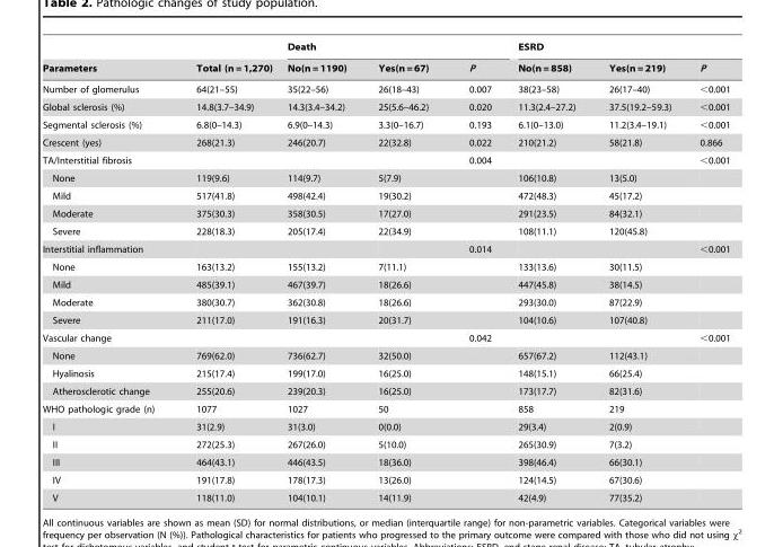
<table><thead><tr><td rowspan="2">Parameters</td><td rowspan="2">Total (n = 1,270)</td><td colspan="3">Death</td><td colspan="3">ESRD</td></tr><tr><td>No(n = 1190)</td><td>Yes(n = 67)</td><td>P</td><td>No(n = 858)</td><td>Yes(n = 219)</td><td>P</td></tr></thead><tbody><tr><td>Number of glomerulus</td><td>64(21–55)</td><td>35(22–56)</td><td>26(18–43)</td><td>0.007</td><td>38(23–58)</td><td>26(17–40)</td><td>&lt;0.001</td></tr><tr><td>Global sclerosis (%)</td><td>14.8(3.7–34.9)</td><td>14.3(3.4–34.2)</td><td>25(5.6–46.2)</td><td>0.020</td><td>11.3(2.4–27.2)</td><td>37.5(19.2–59.3)</td><td>&lt;0.001</td></tr><tr><td>Segmental sclerosis (%)</td><td>6.8(0–14.3)</td><td>6.9(0–14.3)</td><td>3.3(0–16.7)</td><td>0.193</td><td>6.1(0–13.0)</td><td>11.2(3.4–19.1)</td><td>&lt;0.001</td></tr><tr><td>Crescent (yes)</td><td>268(21.3)</td><td>246(20.7)</td><td>22(32.8)</td><td>0.022</td><td>210(21.2)</td><td>58(21.8)</td><td>0.866</td></tr><tr><td>TA/Interstitial fibrosis</td><td></td><td></td><td></td><td>0.004</td><td></td><td></td><td>&lt;0.001</td></tr><tr><td>None</td><td>119(9.6)</td><td>114(9.7)</td><td>5(7.9)</td><td></td><td>106(10.8)</td><td>13(5.0)</td><td></td></tr><tr><td>Mild</td><td>517(41.8)</td><td>498(42.4)</td><td>19(30.2)</td><td></td><td>472(48.3)</td><td>45(17.2)</td><td></td></tr><tr><td>Moderate</td><td>375(30.3)</td><td>358(30.5)</td><td>17(27.0)</td><td></td><td>291(23.5)</td><td>84(32.1)</td><td></td></tr><tr><td>Severe</td><td>228(18.3)</td><td>205(17.4)</td><td>22(34.9)</td><td></td><td>108(11.1)</td><td>120(45.8)</td><td></td></tr><tr><td>Interstitial inflammation</td><td></td><td></td><td></td><td>0.014</td><td></td><td></td><td>&lt;0.001</td></tr><tr><td>None</td><td>163(13.2)</td><td>155(13.2)</td><td>7(11.1)</td><td></td><td>133(13.6)</td><td>30(11.5)</td><td></td></tr><tr><td>Mild</td><td>485(39.1)</td><td>467(39.7)</td><td>18(26.6)</td><td></td><td>447(45.8)</td><td>38(14.5)</td><td></td></tr><tr><td>Moderate</td><td>380(30.7)</td><td>362(30.8)</td><td>18(26.6)</td><td></td><td>293(30.0)</td><td>87(22.9)</td><td></td></tr><tr><td>Severe</td><td>211(17.0)</td><td>191(16.3)</td><td>20(31.7)</td><td></td><td>104(10.6)</td><td>107(40.8)</td><td></td></tr><tr><td>Vascular change</td><td></td><td></td><td></td><td>0.042</td><td></td><td></td><td>&lt;0.001</td></tr><tr><td>None</td><td>769(62.0)</td><td>736(62.7)</td><td>32(50.0)</td><td></td><td>657(67.2)</td><td>112(43.1)</td><td></td></tr><tr><td>Hyalinosis</td><td>215(17.4)</td><td>199(17.0)</td><td>16(25.0)</td><td></td><td>148(15.1)</td><td>66(25.4)</td><td></td></tr><tr><td>Atherosclerotic change</td><td>255(20.6)</td><td>239(20.3)</td><td>16(25.0)</td><td></td><td>173(17.7)</td><td>82(31.6)</td><td></td></tr><tr><td>WHO pathologic grade (n)</td><td>1077</td><td>1027</td><td>50</td><td></td><td>858</td><td>219</td><td></td></tr><tr><td>I</td><td>31(2.9)</td><td>31(3.0)</td><td>0(0.0)</td><td></td><td>29(3.4)</td><td>2(0.9)</td><td></td></tr><tr><td>II</td><td>272(25.3)</td><td>267(26.0)</td><td>5(10.0)</td><td></td><td>265(30.9)</td><td>7(3.2)</td><td></td></tr><tr><td>III</td><td>464(43.1)</td><td>446(43.5)</td><td>18(36.0)</td><td></td><td>398(46.4)</td><td>66(30.1)</td><td></td></tr><tr><td>IV</td><td>191(17.8)</td><td>178(17.3)</td><td>13(26.0)</td><td></td><td>124(14.5)</td><td>67(30.6)</td><td></td></tr><tr><td>V</td><td>118(11.0)</td><td>104(10.1)</td><td>14(11.9)</td><td></td><td>42(4.9)</td><td>77(35.2)</td><td></td></tr></tbody></table>